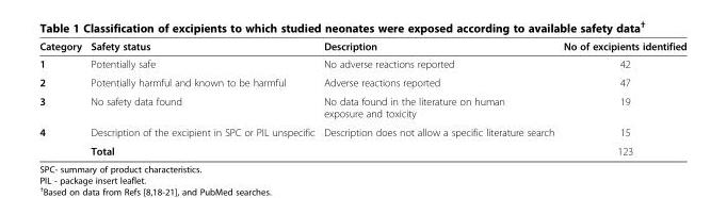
<table><thead><tr><td>Category</td><td>Safety status</td><td>Description</td><td>No of excipients identified</td></tr></thead><tbody><tr><td>1</td><td>Potentially safe</td><td>No adverse reactions reported</td><td>42</td></tr><tr><td>2</td><td>Potentially harmful and known to be harmful</td><td>Adverse reactions reported</td><td>47</td></tr><tr><td>3</td><td>No safety data found</td><td>No data found in the literature on human exposure and toxicity</td><td>19</td></tr><tr><td rowspan="2">4</td><td>Description of the excipient in SPC or PIL unspecific</td><td>Description does not allow a specific literature search</td><td>15</td></tr><tr><td>Total</td><td></td><td>123</td></tr></tbody></table>